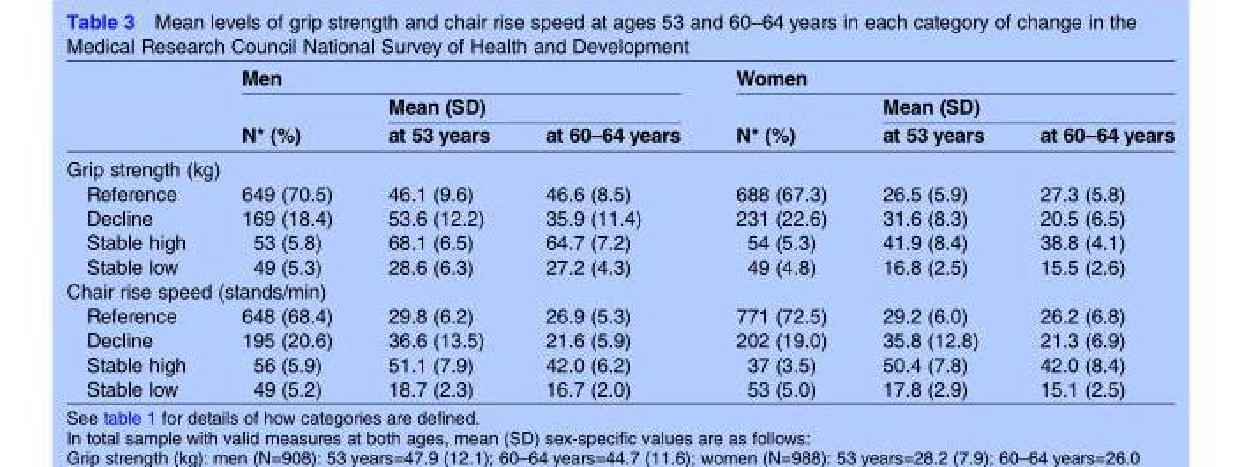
<table><thead><tr><td rowspan="3"></td><td colspan="3">Men</td><td colspan="3">Women</td></tr><tr><td rowspan="2">N* (%)</td><td colspan="2">Mean (SD)</td><td rowspan="2">N* (%)</td><td colspan="2">Mean (SD)</td></tr><tr><td>at 53 years</td><td>at 60–64 years</td><td>at 53 years</td><td>at 60–64 years</td></tr></thead><tbody><tr><td colspan="7">Grip strength (kg)</td></tr><tr><td>Reference</td><td>649 (70.5)</td><td>46.1 (9.6)</td><td>46.6 (8.5)</td><td>688 (67.3)</td><td>26.5 (5.9)</td><td>27.3 (5.8)</td></tr><tr><td>Decline</td><td>169 (18.4)</td><td>53.6 (12.2)</td><td>35.9 (11.4)</td><td>231 (22.6)</td><td>31.6 (8.3)</td><td>20.5 (6.5)</td></tr><tr><td>Stable high</td><td>53 (5.8)</td><td>68.1 (6.5)</td><td>64.7 (7.2)</td><td>54 (5.3)</td><td>41.9 (8.4)</td><td>38.8 (4.1)</td></tr><tr><td>Stable low</td><td>49 (5.3)</td><td>28.6 (6.3)</td><td>27.2 (4.3)</td><td>49 (4.8)</td><td>16.8 (2.5)</td><td>15.5 (2.6)</td></tr><tr><td colspan="7">Chair rise speed (stands/min)</td></tr><tr><td>Reference</td><td>648 (68.4)</td><td>29.8 (6.2)</td><td>26.9 (5.3)</td><td>771 (72.5)</td><td>29.2 (6.0)</td><td>26.2 (6.8)</td></tr><tr><td>Decline</td><td>195 (20.6)</td><td>36.6 (13.5)</td><td>21.6 (5.9)</td><td>202 (19.0)</td><td>35.8 (12.8)</td><td>21.3 (6.9)</td></tr><tr><td>Stable high</td><td>56 (5.9)</td><td>51.1 (7.9)</td><td>42.0 (6.2)</td><td>37 (3.5)</td><td>50.4 (7.8)</td><td>42.0 (8.4)</td></tr><tr><td>Stable low</td><td>49 (5.2)</td><td>18.7 (2.3)</td><td>16.7 (2.0)</td><td>53 (5.0)</td><td>17.8 (2.9)</td><td>15.1 (2.5)</td></tr></tbody></table>